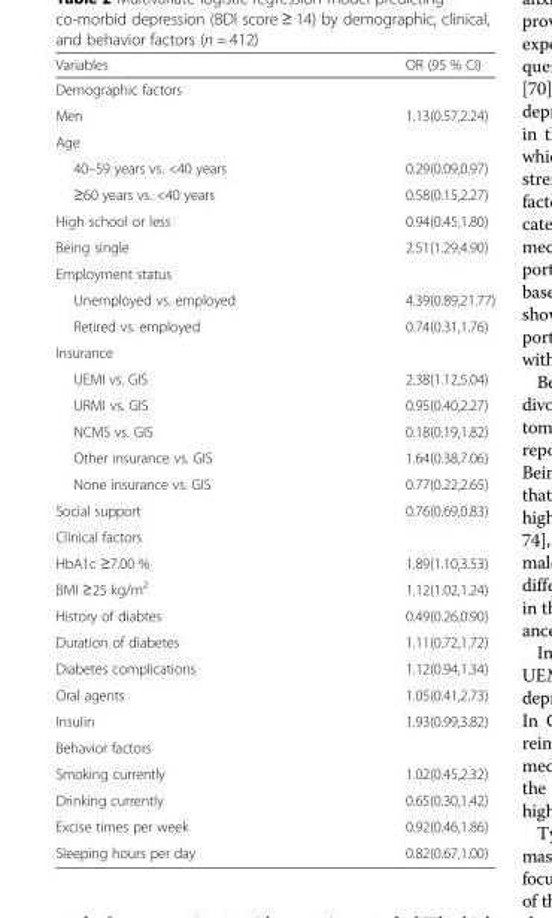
<table><thead><tr><td>Variables</td><td>OR (95 % CI)</td></tr></thead><tbody><tr><td colspan="2">Demographic factors</td></tr><tr><td>Men</td><td>1.13(0.57,2.24)</td></tr><tr><td colspan="2">Age</td></tr><tr><td>40–59 years vs. &lt;40 years</td><td>0.29(0.09,0.97)</td></tr><tr><td>≥60 years vs. &lt;40 years</td><td>0.58(0.15,2.27)</td></tr><tr><td>High school or less</td><td>0.94(0.45,1.80)</td></tr><tr><td>Being single</td><td>2.51(1.29,4.90)</td></tr><tr><td colspan="2">Employment status</td></tr><tr><td>Unemployed vs. employed</td><td>4.39(0.89,21.77)</td></tr><tr><td>Retired vs. employed</td><td>0.74(0.31,1.76)</td></tr><tr><td colspan="2">Insurance</td></tr><tr><td>UEMI vs. GIS</td><td>2.38(1.12,5.04)</td></tr><tr><td>URMI vs. GIS</td><td>0.95(0.40,2.27)</td></tr><tr><td>NCMS vs. GIS</td><td>0.18(0.19,1.82)</td></tr><tr><td>Other insurance vs. GIS</td><td>1.64(0.38,7.06)</td></tr><tr><td>None insurance vs. GIS</td><td>0.77(0.22,2.65)</td></tr><tr><td>Social support</td><td>0.76(0.69,0.83)</td></tr><tr><td colspan="2">Clinical factors</td></tr><tr><td>HbA1c ≥7.00 %</td><td>1.89(1.10,3.53)</td></tr><tr><td>BMI ≥25 kg/m<sup>2</sup></td><td>1.12(1.02,1.24)</td></tr><tr><td>History of diabtes</td><td>0.49(0.26,0.90)</td></tr><tr><td>Duration of diabetes</td><td>1.11(0.72,1.72)</td></tr><tr><td>Diabetes complications</td><td>1.12(0.94,1.34)</td></tr><tr><td>Oral agents</td><td>1.05(0.41,2.73)</td></tr><tr><td>Insulin</td><td>1.93(0.99,3.82)</td></tr><tr><td colspan="2">Behavior factors</td></tr><tr><td>Smoking currently</td><td>1.02(0.45,2.32)</td></tr><tr><td>Drinking currently</td><td>0.65(0.30,1.42)</td></tr><tr><td>Excise times per week</td><td>0.92(0.46,1.86)</td></tr><tr><td>Sleeping hours per day</td><td>0.82(0.67,1.00)</td></tr></tbody></table>